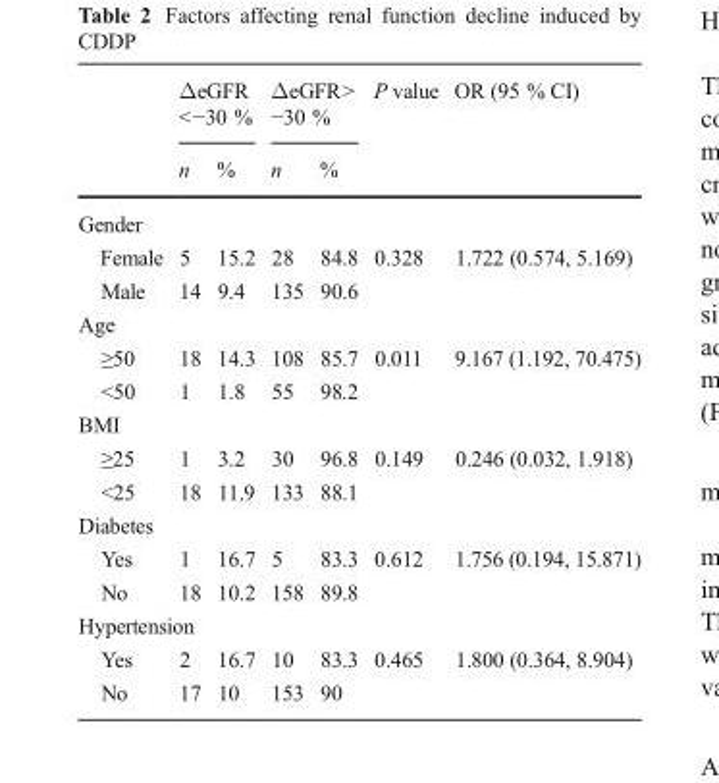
<table><thead><tr><td rowspan="2"></td><td colspan="2">ΔeGFR &lt;−30 %</td><td colspan="2">ΔeGFR&gt; −30 %</td><td rowspan="2">P value</td><td rowspan="2">OR (95 % CI)</td></tr><tr><td>n</td><td>%</td><td>n</td><td>%</td></tr></thead><tbody><tr><td colspan="7">Gender</td></tr><tr><td>Female</td><td>5</td><td>15.2</td><td>28</td><td>84.8</td><td>0.328</td><td>1.722 (0.574, 5.169)</td></tr><tr><td>Male</td><td>14</td><td>9.4</td><td>135</td><td>90.6</td><td></td><td></td></tr><tr><td colspan="7">Age</td></tr><tr><td>≥50</td><td>18</td><td>14.3</td><td>108</td><td>85.7</td><td>0.011</td><td>9.167 (1.192, 70.475)</td></tr><tr><td>&lt;50</td><td>1</td><td>1.8</td><td>55</td><td>98.2</td><td></td><td></td></tr><tr><td colspan="7">BMI</td></tr><tr><td>≥25</td><td>1</td><td>3.2</td><td>30</td><td>96.8</td><td>0.149</td><td>0.246 (0.032, 1.918)</td></tr><tr><td>&lt;25</td><td>18</td><td>11.9</td><td>133</td><td>88.1</td><td></td><td></td></tr><tr><td colspan="7">Diabetes</td></tr><tr><td>Yes</td><td>1</td><td>16.7</td><td>5</td><td>83.3</td><td>0.612</td><td>1.756 (0.194, 15.871)</td></tr><tr><td>No</td><td>18</td><td>10.2</td><td>158</td><td>89.8</td><td></td><td></td></tr><tr><td colspan="7">Hypertension</td></tr><tr><td>Yes</td><td>2</td><td>16.7</td><td>10</td><td>83.3</td><td>0.465</td><td>1.800 (0.364, 8.904)</td></tr><tr><td>No</td><td>17</td><td>10</td><td>153</td><td>90</td><td></td><td></td></tr></tbody></table>